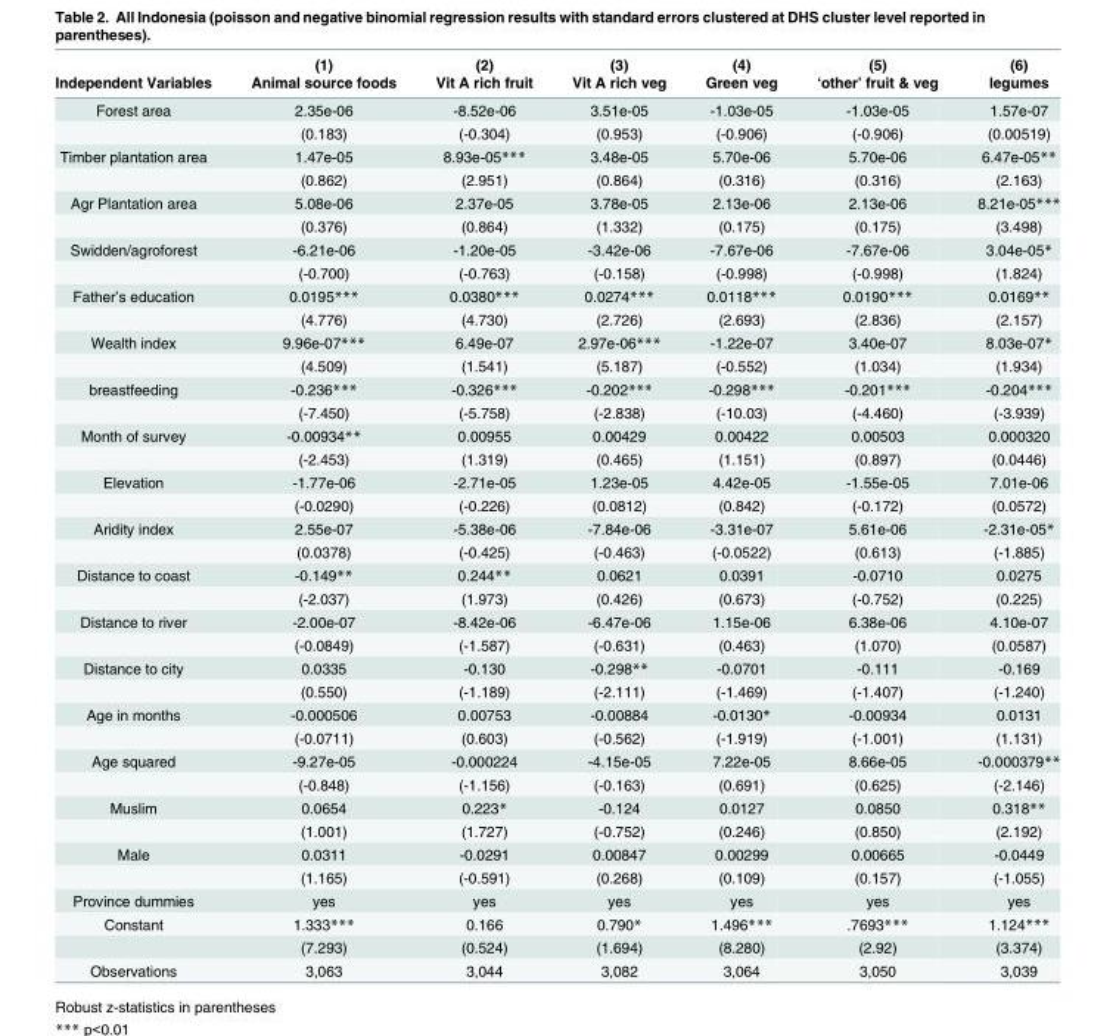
<table><thead><tr><td rowspan="2">Independent Variables</td><td rowspan="2">(1) Animal source foods</td><td rowspan="2">(2) Vit A rich fruit</td><td rowspan="2">(3) Vit A rich veg</td><td rowspan="2">(4) Green veg</td><td rowspan="2">(5) ‘other’ fruit &amp; veg</td><td rowspan="2">(6) legumes</td></tr><tr></tr></thead><tbody><tr><td rowspan="2">Forest area</td><td>2.35e-06</td><td>-8.52e-06</td><td>3.51e-05</td><td>-1.03e-05</td><td>-1.03e-05</td><td>1.57e-07</td></tr><tr><td>(0.183)</td><td>(-0.304)</td><td>(0.953)</td><td>(-0.906)</td><td>(-0.906)</td><td>(0.00519)</td></tr><tr><td rowspan="2">Timber plantation area</td><td>1.47e-05</td><td>8.93e-05***</td><td>3.48e-05</td><td>5.70e-06</td><td>5.70e-06</td><td>6.47e-05**</td></tr><tr><td>(0.862)</td><td>(2.951)</td><td>(0.864)</td><td>(0.316)</td><td>(0.316)</td><td>(2.163)</td></tr><tr><td rowspan="2">Agr Plantation area</td><td>5.08e-06</td><td>2.37e-05</td><td>3.78e-05</td><td>2.13e-06</td><td>2.13e-06</td><td>8.21e-05***</td></tr><tr><td>(0.376)</td><td>(0.864)</td><td>(1.332)</td><td>(0.175)</td><td>(0.175)</td><td>(3.498)</td></tr><tr><td rowspan="2">Swidden/agroforest</td><td>-6.21e-06</td><td>-1.20e-05</td><td>-3.42e-06</td><td>-7.67e-06</td><td>-7.67e-06</td><td>3.04e-05*</td></tr><tr><td>(-0.700)</td><td>(-0.763)</td><td>(-0.158)</td><td>(-0.998)</td><td>(-0.998)</td><td>(1.824)</td></tr><tr><td rowspan="2">Father’s education</td><td>0.0195***</td><td>0.0380***</td><td>0.0274***</td><td>0.0118***</td><td>0.0190***</td><td>0.0169**</td></tr><tr><td>(4.776)</td><td>(4.730)</td><td>(2.726)</td><td>(2.693)</td><td>(2.836)</td><td>(2.157)</td></tr><tr><td rowspan="2">Wealth index</td><td>9.96e-07***</td><td>6.49e-07</td><td>2.97e-06***</td><td>-1.22e-07</td><td>3.40e-07</td><td>8.03e-07*</td></tr><tr><td>(4.509)</td><td>(1.541)</td><td>(5.187)</td><td>(-0.552)</td><td>(1.034)</td><td>(1.934)</td></tr><tr><td rowspan="2">breastfeeding</td><td>-0.236***</td><td>-0.326***</td><td>-0.202***</td><td>-0.298***</td><td>-0.201***</td><td>-0.204***</td></tr><tr><td>(-7.450)</td><td>(-5.758)</td><td>(-2.838)</td><td>(-10.03)</td><td>(-4.460)</td><td>(-3.939)</td></tr><tr><td rowspan="2">Month of survey</td><td>-0.00934**</td><td>0.00955</td><td>0.00429</td><td>0.00422</td><td>0.00503</td><td>0.000320</td></tr><tr><td>(-2.453)</td><td>(1.319)</td><td>(0.465)</td><td>(1.151)</td><td>(0.897)</td><td>(0.0446)</td></tr><tr><td rowspan="2">Elevation</td><td>-1.77e-06</td><td>-2.71e-05</td><td>1.23e-05</td><td>4.42e-05</td><td>-1.55e-05</td><td>7.01e-06</td></tr><tr><td>(-0.0290)</td><td>(-0.226)</td><td>(0.0812)</td><td>(0.842)</td><td>(-0.172)</td><td>(0.0572)</td></tr><tr><td rowspan="2">Aridity index</td><td>2.55e-07</td><td>-5.38e-06</td><td>-7.84e-06</td><td>-3.31e-07</td><td>5.61e-06</td><td>-2.31e-05*</td></tr><tr><td>(0.0378)</td><td>(-0.425)</td><td>(-0.463)</td><td>(-0.0522)</td><td>(0.613)</td><td>(-1.885)</td></tr><tr><td rowspan="2">Distance to coast</td><td>-0.149**</td><td>0.244**</td><td>0.0621</td><td>0.0391</td><td>-0.0710</td><td>0.0275</td></tr><tr><td>(-2.037)</td><td>(1.973)</td><td>(0.426)</td><td>(0.673)</td><td>(-0.752)</td><td>(0.225)</td></tr><tr><td rowspan="2">Distance to river</td><td>-2.00e-07</td><td>-8.42e-06</td><td>-6.47e-06</td><td>1.15e-06</td><td>6.38e-06</td><td>4.10e-07</td></tr><tr><td>(-0.0849)</td><td>(-1.587)</td><td>(-0.631)</td><td>(0.463)</td><td>(1.070)</td><td>(0.0587)</td></tr><tr><td rowspan="2">Distance to city</td><td>0.0335</td><td>-0.130</td><td>-0.298**</td><td>-0.0701</td><td>-0.111</td><td>-0.169</td></tr><tr><td>(0.550)</td><td>(-1.189)</td><td>(-2.111)</td><td>(-1.469)</td><td>(-1.407)</td><td>(-1.240)</td></tr><tr><td rowspan="2">Age in months</td><td>-0.000506</td><td>0.00753</td><td>-0.00884</td><td>-0.0130*</td><td>-0.00934</td><td>0.0131</td></tr><tr><td>(-0.0711)</td><td>(0.603)</td><td>(-0.562)</td><td>(-1.919)</td><td>(-1.001)</td><td>(1.131)</td></tr><tr><td rowspan="2">Age squared</td><td>-9.27e-05</td><td>-0.000224</td><td>-4.15e-05</td><td>7.22e-05</td><td>8.66e-05</td><td>-0.000379**</td></tr><tr><td>(-0.848)</td><td>(-1.156)</td><td>(-0.163)</td><td>(0.691)</td><td>(0.625)</td><td>(-2.146)</td></tr><tr><td rowspan="2">Muslim</td><td>0.0654</td><td>0.223*</td><td>-0.124</td><td>0.0127</td><td>0.0850</td><td>0.318**</td></tr><tr><td>(1.001)</td><td>(1.727)</td><td>(-0.752)</td><td>(0.246)</td><td>(0.850)</td><td>(2.192)</td></tr><tr><td rowspan="2">Male</td><td>0.0311</td><td>-0.0291</td><td>0.00847</td><td>0.00299</td><td>0.00665</td><td>-0.0449</td></tr><tr><td>(1.165)</td><td>(-0.591)</td><td>(0.268)</td><td>(0.109)</td><td>(0.157)</td><td>(-1.055)</td></tr><tr><td>Province dummies</td><td>yes</td><td>yes</td><td>yes</td><td>yes</td><td>yes</td><td>yes</td></tr><tr><td rowspan="2">Constant</td><td>1.333***</td><td>0.166</td><td>0.790*</td><td>1.496***</td><td>.7693***</td><td>1.124***</td></tr><tr><td>(7.293)</td><td>(0.524)</td><td>(1.694)</td><td>(8.280)</td><td>(2.92)</td><td>(3.374)</td></tr><tr><td>Observations</td><td>3,063</td><td>3,044</td><td>3,082</td><td>3,064</td><td>3,050</td><td>3,039</td></tr></tbody></table>